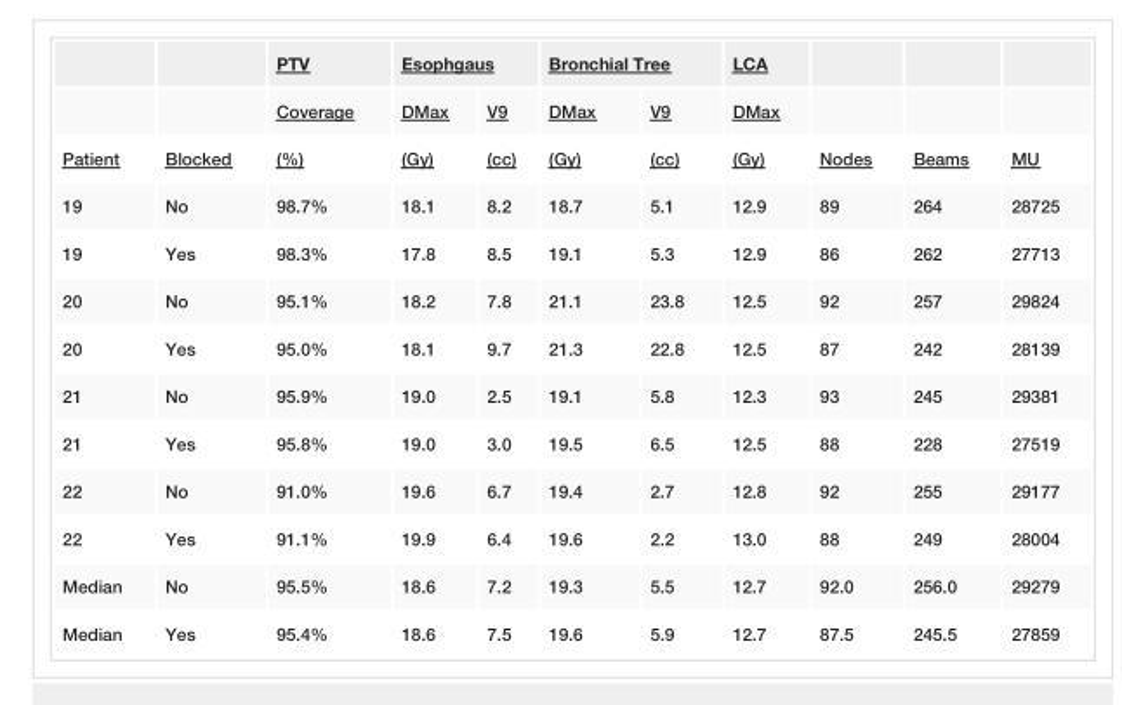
<table><thead><tr><td rowspan="2"></td><td rowspan="2"></td><td rowspan="2">PTV Coverage</td><td colspan="2">Esophgaus</td><td colspan="2">Bronchial Tree</td><td rowspan="2">LCA DMax</td><td rowspan="2"></td><td rowspan="2"></td><td rowspan="2"></td></tr><tr><td>DMax</td><td>V9</td><td>DMax</td><td>V9</td></tr></thead><tbody><tr><td>Patient</td><td>Blocked</td><td>(%)</td><td>(Gy)</td><td>(cc)</td><td>(Gy)</td><td>(cc)</td><td>(Gy)</td><td>Nodes</td><td>Beams</td><td>MU</td></tr><tr><td>19</td><td>No</td><td>98.7%</td><td>18.1</td><td>8.2</td><td>18.7</td><td>5.1</td><td>12.9</td><td>89</td><td>264</td><td>28725</td></tr><tr><td>19</td><td>Yes</td><td>98.3%</td><td>17.8</td><td>8.5</td><td>19.1</td><td>5.3</td><td>12.9</td><td>86</td><td>262</td><td>27713</td></tr><tr><td>20</td><td>No</td><td>95.1%</td><td>18.2</td><td>7.8</td><td>21.1</td><td>23.8</td><td>12.5</td><td>92</td><td>257</td><td>29824</td></tr><tr><td>20</td><td>Yes</td><td>95.0%</td><td>18.1</td><td>9.7</td><td>21.3</td><td>22.8</td><td>12.5</td><td>87</td><td>242</td><td>28139</td></tr><tr><td>21</td><td>No</td><td>95.9%</td><td>19.0</td><td>2.5</td><td>19.1</td><td>5.8</td><td>12.3</td><td>93</td><td>245</td><td>29381</td></tr><tr><td>21</td><td>Yes</td><td>95.8%</td><td>19.0</td><td>3.0</td><td>19.5</td><td>6.5</td><td>12.5</td><td>88</td><td>228</td><td>27519</td></tr><tr><td>22</td><td>No</td><td>91.0%</td><td>19.6</td><td>6.7</td><td>19.4</td><td>2.7</td><td>12.8</td><td>92</td><td>255</td><td>29177</td></tr><tr><td>22</td><td>Yes</td><td>91.1%</td><td>19.9</td><td>6.4</td><td>19.6</td><td>2.2</td><td>13.0</td><td>88</td><td>249</td><td>28004</td></tr><tr><td>Median</td><td>No</td><td>95.5%</td><td>18.6</td><td>7.2</td><td>19.3</td><td>5.5</td><td>12.7</td><td>92.0</td><td>256.0</td><td>29279</td></tr><tr><td>Median</td><td>Yes</td><td>95.4%</td><td>18.6</td><td>7.5</td><td>19.6</td><td>5.9</td><td>12.7</td><td>87.5</td><td>245.5</td><td>27859</td></tr></tbody></table>